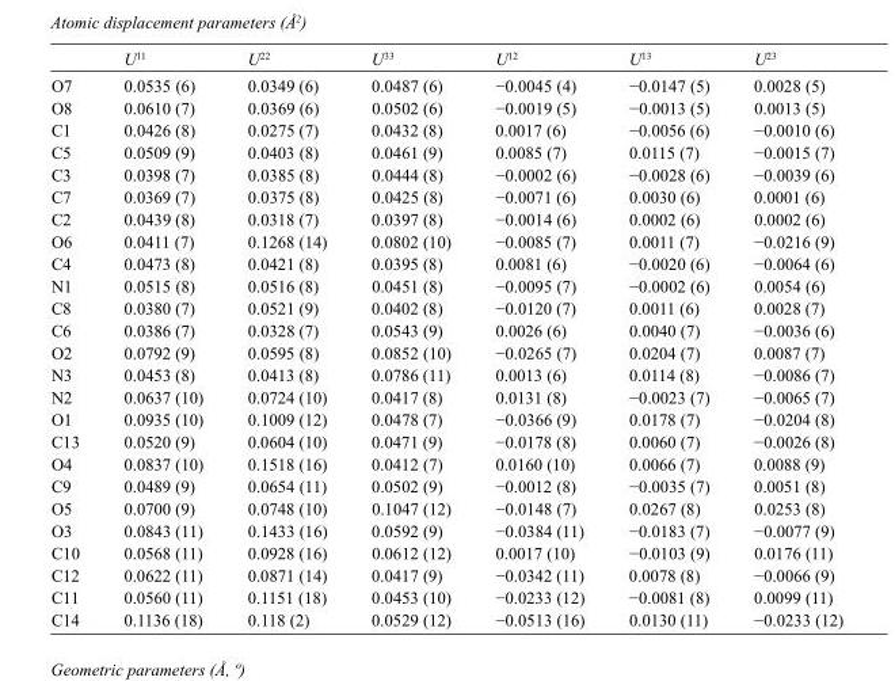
<table><thead><tr><td></td><td>U<sup>11</sup></td><td>U<sup>22</sup></td><td>U<sup>33</sup></td><td>U<sup>12</sup></td><td>U<sup>13</sup></td><td>U<sup>23</sup></td></tr></thead><tbody><tr><td>O7</td><td>0.0535 (6)</td><td>0.0349 (6)</td><td>0.0487 (6)</td><td>−0.0045 (4)</td><td>−0.0147 (5)</td><td>0.0028 (5)</td></tr><tr><td>O8</td><td>0.0610 (7)</td><td>0.0369 (6)</td><td>0.0502 (6)</td><td>−0.0019 (5)</td><td>−0.0013 (5)</td><td>0.0013 (5)</td></tr><tr><td>C1</td><td>0.0426 (8)</td><td>0.0275 (7)</td><td>0.0432 (8)</td><td>0.0017 (6)</td><td>−0.0056 (6)</td><td>−0.0010 (6)</td></tr><tr><td>C5</td><td>0.0509 (9)</td><td>0.0403 (8)</td><td>0.0461 (9)</td><td>0.0085 (7)</td><td>0.0115 (7)</td><td>−0.0015 (7)</td></tr><tr><td>C3</td><td>0.0398 (7)</td><td>0.0385 (8)</td><td>0.0444 (8)</td><td>−0.0002 (6)</td><td>−0.0028 (6)</td><td>−0.0039 (6)</td></tr><tr><td>C7</td><td>0.0369 (7)</td><td>0.0375 (8)</td><td>0.0425 (8)</td><td>−0.0071 (6)</td><td>0.0030 (6)</td><td>0.0001 (6)</td></tr><tr><td>C2</td><td>0.0439 (8)</td><td>0.0318 (7)</td><td>0.0397 (8)</td><td>−0.0014 (6)</td><td>0.0002 (6)</td><td>0.0002 (6)</td></tr><tr><td>O6</td><td>0.0411 (7)</td><td>0.1268 (14)</td><td>0.0802 (10)</td><td>−0.0085 (7)</td><td>0.0011 (7)</td><td>−0.0216 (9)</td></tr><tr><td>C4</td><td>0.0473 (8)</td><td>0.0421 (8)</td><td>0.0395 (8)</td><td>0.0081 (6)</td><td>−0.0020 (6)</td><td>−0.0064 (6)</td></tr><tr><td>N1</td><td>0.0515 (8)</td><td>0.0516 (8)</td><td>0.0451 (8)</td><td>−0.0095 (7)</td><td>−0.0002 (6)</td><td>0.0054 (6)</td></tr><tr><td>C8</td><td>0.0380 (7)</td><td>0.0521 (9)</td><td>0.0402 (8)</td><td>−0.0120 (7)</td><td>0.0011 (6)</td><td>0.0028 (7)</td></tr><tr><td>C6</td><td>0.0386 (7)</td><td>0.0328 (7)</td><td>0.0543 (9)</td><td>0.0026 (6)</td><td>0.0040 (7)</td><td>−0.0036 (6)</td></tr><tr><td>O2</td><td>0.0792 (9)</td><td>0.0595 (8)</td><td>0.0852 (10)</td><td>−0.0265 (7)</td><td>0.0204 (7)</td><td>0.0087 (7)</td></tr><tr><td>N3</td><td>0.0453 (8)</td><td>0.0413 (8)</td><td>0.0786 (11)</td><td>0.0013 (6)</td><td>0.0114 (8)</td><td>−0.0086 (7)</td></tr><tr><td>N2</td><td>0.0637 (10)</td><td>0.0724 (10)</td><td>0.0417 (8)</td><td>0.0131 (8)</td><td>−0.0023 (7)</td><td>−0.0065 (7)</td></tr><tr><td>O1</td><td>0.0935 (10)</td><td>0.1009 (12)</td><td>0.0478 (7)</td><td>−0.0366 (9)</td><td>0.0178 (7)</td><td>−0.0204 (8)</td></tr><tr><td>C13</td><td>0.0520 (9)</td><td>0.0604 (10)</td><td>0.0471 (9)</td><td>−0.0178 (8)</td><td>0.0060 (7)</td><td>−0.0026 (8)</td></tr><tr><td>O4</td><td>0.0837 (10)</td><td>0.1518 (16)</td><td>0.0412 (7)</td><td>0.0160 (10)</td><td>0.0066 (7)</td><td>0.0088 (9)</td></tr><tr><td>C9</td><td>0.0489 (9)</td><td>0.0654 (11)</td><td>0.0502 (9)</td><td>−0.0012 (8)</td><td>−0.0035 (7)</td><td>0.0051 (8)</td></tr><tr><td>O5</td><td>0.0700 (9)</td><td>0.0748 (10)</td><td>0.1047 (12)</td><td>−0.0148 (7)</td><td>0.0267 (8)</td><td>0.0253 (8)</td></tr><tr><td>O3</td><td>0.0843 (11)</td><td>0.1433 (16)</td><td>0.0592 (9)</td><td>−0.0384 (11)</td><td>−0.0183 (7)</td><td>−0.0077 (9)</td></tr><tr><td>C10</td><td>0.0568 (11)</td><td>0.0928 (16)</td><td>0.0612 (12)</td><td>0.0017 (10)</td><td>−0.0103 (9)</td><td>0.0176 (11)</td></tr><tr><td>C12</td><td>0.0622 (11)</td><td>0.0871 (14)</td><td>0.0417 (9)</td><td>−0.0342 (11)</td><td>0.0078 (8)</td><td>−0.0066 (9)</td></tr><tr><td>C11</td><td>0.0560 (11)</td><td>0.1151 (18)</td><td>0.0453 (10)</td><td>−0.0233 (12)</td><td>−0.0081 (8)</td><td>0.0099 (11)</td></tr><tr><td>C14</td><td>0.1136 (18)</td><td>0.118 (2)</td><td>0.0529 (12)</td><td>−0.0513 (16)</td><td>0.0130 (11)</td><td>−0.0233 (12)</td></tr></tbody></table>